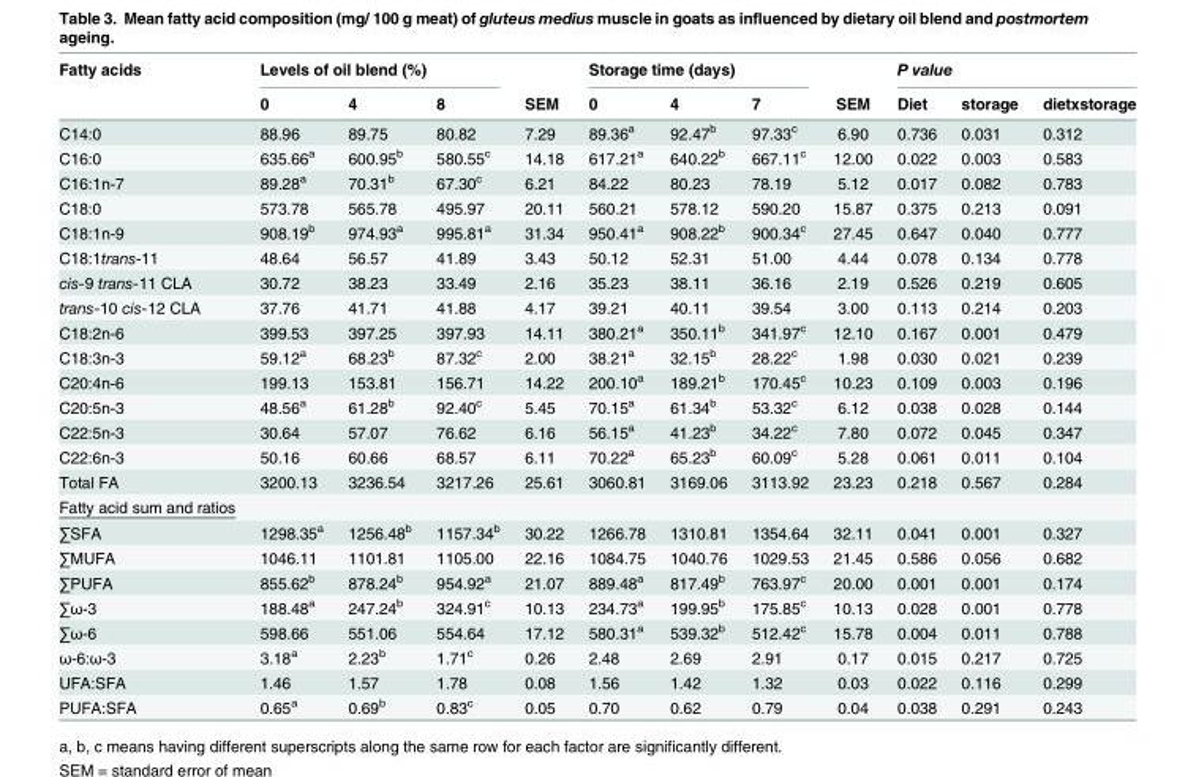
<table><thead><tr><td rowspan="2">Fatty acids</td><td colspan="3">Levels of oil blend (%)</td><td rowspan="2">SEM</td><td colspan="3">Storage time (days)</td><td rowspan="2">SEM</td><td colspan="3">P value</td></tr><tr><td>0</td><td>4</td><td>8</td><td>0</td><td>4</td><td>7</td><td>Diet</td><td>storage</td><td>dietxstorage</td></tr></thead><tbody><tr><td>C14:0</td><td>88.96</td><td>89.75</td><td>80.82</td><td>7.29</td><td>89.36<sup>a</sup></td><td>92.47<sup>b</sup></td><td>97.33<sup>c</sup></td><td>6.90</td><td>0.736</td><td>0.031</td><td>0.312</td></tr><tr><td>C16:0</td><td>635.66<sup>a</sup></td><td>600.95<sup>b</sup></td><td>580.55<sup>c</sup></td><td>14.18</td><td>617.21<sup>a</sup></td><td>640.22<sup>b</sup></td><td>667.11<sup>c</sup></td><td>12.00</td><td>0.022</td><td>0.003</td><td>0.583</td></tr><tr><td>C16:1n-7</td><td>89.28<sup>a</sup></td><td>70.31<sup>b</sup></td><td>67.30<sup>c</sup></td><td>6.21</td><td>84.22</td><td>80.23</td><td>78.19</td><td>5.12</td><td>0.017</td><td>0.082</td><td>0.783</td></tr><tr><td>C18:0</td><td>573.78</td><td>565.78</td><td>495.97</td><td>20.11</td><td>560.21</td><td>578.12</td><td>590.20</td><td>15.87</td><td>0.375</td><td>0.213</td><td>0.091</td></tr><tr><td>C18:1n-9</td><td>908.19<sup>b</sup></td><td>974.93<sup>a</sup></td><td>995.81<sup>a</sup></td><td>31.34</td><td>950.41<sup>a</sup></td><td>908.22<sup>b</sup></td><td>900.34<sup>c</sup></td><td>27.45</td><td>0.647</td><td>0.040</td><td>0.777</td></tr><tr><td>C18:1trans-11</td><td>48.64</td><td>56.57</td><td>41.89</td><td>3.43</td><td>50.12</td><td>52.31</td><td>51.00</td><td>4.44</td><td>0.078</td><td>0.134</td><td>0.778</td></tr><tr><td>cis-9 trans-11 CLA</td><td>30.72</td><td>38.23</td><td>33.49</td><td>2.16</td><td>35.23</td><td>38.11</td><td>36.16</td><td>2.19</td><td>0.526</td><td>0.219</td><td>0.605</td></tr><tr><td>trans-10 cis-12 CLA</td><td>37.76</td><td>41.71</td><td>41.88</td><td>4.17</td><td>39.21</td><td>40.11</td><td>39.54</td><td>3.00</td><td>0.113</td><td>0.214</td><td>0.203</td></tr><tr><td>C18:2n-6</td><td>399.53</td><td>397.25</td><td>397.93</td><td>14.11</td><td>380.21<sup>a</sup></td><td>350.11<sup>b</sup></td><td>341.97<sup>c</sup></td><td>12.10</td><td>0.167</td><td>0.001</td><td>0.479</td></tr><tr><td>C18:3n-3</td><td>59.12<sup>a</sup></td><td>68.23<sup>b</sup></td><td>87.32<sup>c</sup></td><td>2.00</td><td>38.21<sup>a</sup></td><td>32.15<sup>b</sup></td><td>28.22<sup>c</sup></td><td>1.98</td><td>0.030</td><td>0.021</td><td>0.239</td></tr><tr><td>C20:4n-6</td><td>199.13</td><td>153.81</td><td>156.71</td><td>14.22</td><td>200.10<sup>a</sup></td><td>189.21<sup>b</sup></td><td>170.45<sup>c</sup></td><td>10.23</td><td>0.109</td><td>0.003</td><td>0.196</td></tr><tr><td>C20:5n-3</td><td>48.56<sup>a</sup></td><td>61.28<sup>b</sup></td><td>92.40<sup>c</sup></td><td>5.45</td><td>70.15<sup>a</sup></td><td>61.34<sup>b</sup></td><td>53.32<sup>c</sup></td><td>6.12</td><td>0.038</td><td>0.028</td><td>0.144</td></tr><tr><td>C22:5n-3</td><td>30.64</td><td>57.07</td><td>76.62</td><td>6.16</td><td>56.15<sup>a</sup></td><td>41.23<sup>b</sup></td><td>34.22<sup>c</sup></td><td>7.80</td><td>0.072</td><td>0.045</td><td>0.347</td></tr><tr><td>C22:6n-3</td><td>50.16</td><td>60.66</td><td>68.57</td><td>6.11</td><td>70.22<sup>a</sup></td><td>65.23<sup>b</sup></td><td>60.09<sup>c</sup></td><td>5.28</td><td>0.061</td><td>0.011</td><td>0.104</td></tr><tr><td>Total FA</td><td>3200.13</td><td>3236.54</td><td>3217.26</td><td>25.61</td><td>3060.81</td><td>3169.06</td><td>3113.92</td><td>23.23</td><td>0.218</td><td>0.567</td><td>0.284</td></tr><tr><td colspan="12">Fatty acid sum and ratios</td></tr><tr><td>∑SFA</td><td>1298.35<sup>a</sup></td><td>1256.48<sup>b</sup></td><td>1157.34<sup>b</sup></td><td>30.22</td><td>1266.78</td><td>1310.81</td><td>1354.64</td><td>32.11</td><td>0.041</td><td>0.001</td><td>0.327</td></tr><tr><td>∑MUFA</td><td>1046.11</td><td>1101.81</td><td>1105.00</td><td>22.16</td><td>1084.75</td><td>1040.76</td><td>1029.53</td><td>21.45</td><td>0.586</td><td>0.056</td><td>0.682</td></tr><tr><td>∑PUFA</td><td>855.62<sup>b</sup></td><td>878.24<sup>b</sup></td><td>954.92<sup>a</sup></td><td>21.07</td><td>889.48<sup>a</sup></td><td>817.49<sup>b</sup></td><td>763.97<sup>c</sup></td><td>20.00</td><td>0.001</td><td>0.001</td><td>0.174</td></tr><tr><td>∑ω-3</td><td>188.48<sup>a</sup></td><td>247.24<sup>b</sup></td><td>324.91<sup>c</sup></td><td>10.13</td><td>234.73<sup>a</sup></td><td>199.95<sup>b</sup></td><td>175.85<sup>c</sup></td><td>10.13</td><td>0.028</td><td>0.001</td><td>0.778</td></tr><tr><td>∑ω-6</td><td>598.66</td><td>551.06</td><td>554.64</td><td>17.12</td><td>580.31<sup>a</sup></td><td>539.32<sup>b</sup></td><td>512.42<sup>c</sup></td><td>15.78</td><td>0.004</td><td>0.011</td><td>0.788</td></tr><tr><td>ω-6:ω-3</td><td>3.18<sup>a</sup></td><td>2.23<sup>b</sup></td><td>1.71<sup>c</sup></td><td>0.26</td><td>2.48</td><td>2.69</td><td>2.91</td><td>0.17</td><td>0.015</td><td>0.217</td><td>0.725</td></tr><tr><td>UFA:SFA</td><td>1.46</td><td>1.57</td><td>1.78</td><td>0.08</td><td>1.56</td><td>1.42</td><td>1.32</td><td>0.03</td><td>0.022</td><td>0.116</td><td>0.299</td></tr><tr><td>PUFA:SFA</td><td>0.65<sup>a</sup></td><td>0.69<sup>b</sup></td><td>0.83<sup>c</sup></td><td>0.05</td><td>0.70</td><td>0.62</td><td>0.79</td><td>0.04</td><td>0.038</td><td>0.291</td><td>0.243</td></tr></tbody></table>